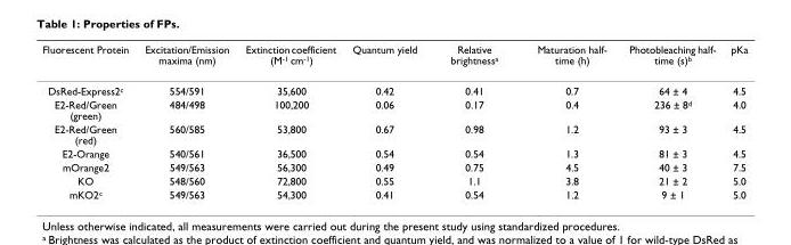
<table><thead><tr><td>Fluorescent Protein</td><td>Excitation/Emission maxima (nm)</td><td>Extinction coefficient (M<sup>-1</sup> cm<sup>-1</sup>)</td><td>Quantum yield</td><td>Relative brightness<sup>a</sup></td><td>Maturation half- time (h)</td><td>Photobleaching half- time (s)<sup>b</sup></td><td>pKa</td></tr></thead><tbody><tr><td>DsRed-Express2<sup>c</sup></td><td>554/591</td><td>35,600</td><td>0.42</td><td>0.41</td><td>0.7</td><td>64 ± 4</td><td>4.5</td></tr><tr><td>E2-Red/Green (green)</td><td>484/498</td><td>100,200</td><td>0.06</td><td>0.17</td><td>0.4</td><td>236 ± 8<sup>d</sup></td><td>4.0</td></tr><tr><td>E2-Red/Green (red)</td><td>560/585</td><td>53,800</td><td>0.67</td><td>0.98</td><td>1.2</td><td>93 ± 3</td><td>4.5</td></tr><tr><td>E2-Orange</td><td>540/561</td><td>36,500</td><td>0.54</td><td>0.54</td><td>1.3</td><td>81 ± 3</td><td>4.5</td></tr><tr><td>mOrange2</td><td>549/563</td><td>56,300</td><td>0.49</td><td>0.75</td><td>4.5</td><td>40 ± 3</td><td>7.5</td></tr><tr><td>KO</td><td>548/560</td><td>72,800</td><td>0.55</td><td>1.1</td><td>3.8</td><td>21 ± 2</td><td>5.0</td></tr><tr><td>mKO2<sup>c</sup></td><td>549/563</td><td>54,300</td><td>0.41</td><td>0.54</td><td>1.2</td><td>9 ± 1</td><td>5.0</td></tr></tbody></table>